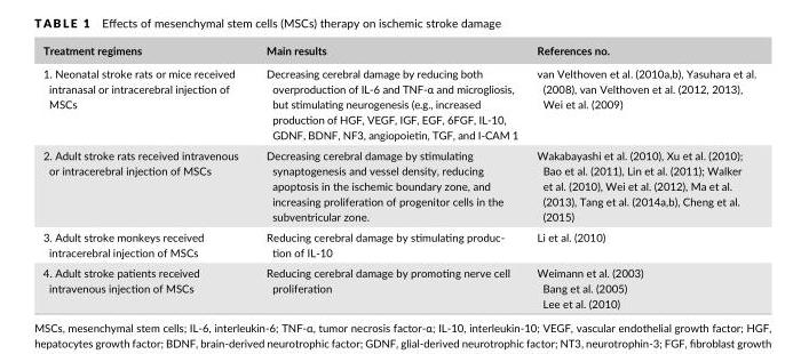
<table><thead><tr><td>Treatment regimens</td><td>Main results</td><td>References no.</td></tr></thead><tbody><tr><td>1. Neonatal stroke rats or mice received intranasal or intracerebral injection of MSCs</td><td>Decreasing cerebral damage by reducing both overproduction of IL- 6 and TNF- α and microgliosis, but stimulating neurogenesis (e.g., increased production of HGF, VEGF, IGF, EGF, 6FGF, IL- 10, GDNF, BDNF, NF3, angiopoietin, TGF, and I- CAM 1</td><td>van Velthoven et al. (2010a,b), Yasuhara et al. (2008), van Velthoven et al. (2012, 2013), Wei et al. (2009)</td></tr><tr><td>2. Adult stroke rats received intravenous or intracerebral injection of MSCs</td><td>Decreasing cerebral damage by stimulating synaptogenesis and vessel density, reducing apoptosis in the ischemic boundary zone, and increasing proliferation of progenitor cells in the subventricular zone.</td><td>Wakabayashi et al. (2010), Xu et al. (2010); Bao et al. (2011), Lin et al. (2011); Walker et al. (2010), Wei et al. (2012), Ma et al. (2013), Tang et al. (2014a,b), Cheng et al. (2015)</td></tr><tr><td>3. Adult stroke monkeys received intracerebral injection of MSCs</td><td>Reducing cerebral damage by stimulating produc- tion of IL- 10</td><td>Li et al. (2010)</td></tr><tr><td>4. Adult stroke patients received intravenous injection of MSCs</td><td>Reducing cerebral damage by promoting nerve cell proliferation</td><td>Weimann et al. (2003) Bang et al. (2005) Lee et al. (2010)</td></tr></tbody></table>